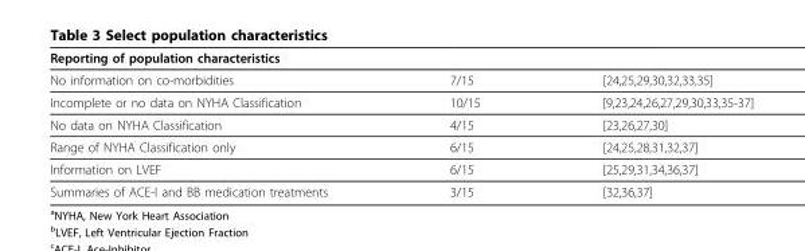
<table><thead><tr><td>Reporting of population characteristics</td><td></td><td></td></tr></thead><tbody><tr><td>No information on co-morbidities</td><td>7/15</td><td>[24,25,29,30,32,33,35]</td></tr><tr><td>Incomplete or no data on NYHA Classification</td><td>10/15</td><td>[9,23,24,26,27,29,30,33,35-37]</td></tr><tr><td>No data on NYHA Classification</td><td>4/15</td><td>[23,26,27,30]</td></tr><tr><td>Range of NYHA Classification only</td><td>6/15</td><td>[24,25,28,31,32,37]</td></tr><tr><td>Information on LVEF</td><td>6/15</td><td>[25,29,31,34,36,37]</td></tr><tr><td>Summaries of ACE-I and BB medication treatments</td><td>3/15</td><td>[32,36,37]</td></tr></tbody></table>